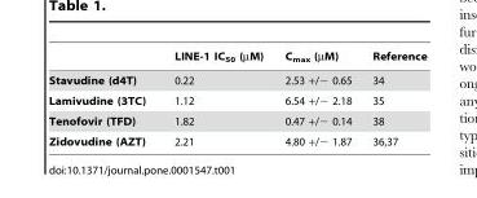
<table><thead><tr><td></td><td>LINE-1 IC<sub>50</sub> (µM)</td><td>C<sub>max</sub> (µM)</td><td>Reference</td></tr></thead><tbody><tr><td>Stavudine (d4T)</td><td>0.22</td><td>2.53 +/− 0.65</td><td>34</td></tr><tr><td>Lamivudine (3TC)</td><td>1.12</td><td>6.54 +/− 2.18</td><td>35</td></tr><tr><td>Tenofovir (TFD)</td><td>1.82</td><td>0.47 +/− 0.14</td><td>38</td></tr><tr><td>Zidovudine (AZT)</td><td>2.21</td><td>4.80 +/− 1.87</td><td>36,37</td></tr></tbody></table>